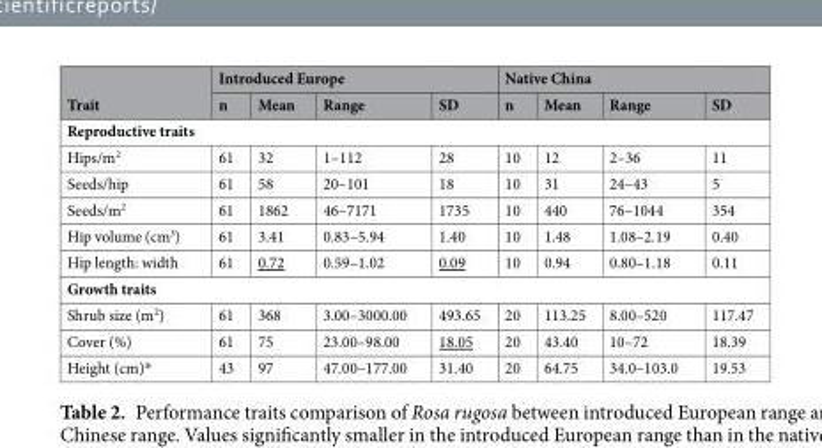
<table><thead><tr><td rowspan="2">Trait</td><td colspan="4">Introduced Europe</td><td colspan="4">Native China</td></tr><tr><td>n</td><td>Mean</td><td>Range</td><td>SD</td><td>n</td><td>Mean</td><td>Range</td><td>SD</td></tr></thead><tbody><tr><td colspan="9">Reproductive traits</td></tr><tr><td>Hips/m<sup>2</sup></td><td>61</td><td>32</td><td>1–112</td><td>28</td><td>10</td><td>12</td><td>2–36</td><td>11</td></tr><tr><td>Seeds/hip</td><td>61</td><td>58</td><td>20–101</td><td>18</td><td>10</td><td>31</td><td>24–43</td><td>5</td></tr><tr><td>Seeds/m<sup>2</sup></td><td>61</td><td>1862</td><td>46–7171</td><td>1735</td><td>10</td><td>440</td><td>76–1044</td><td>354</td></tr><tr><td>Hip volume (cm<sup>3</sup>)</td><td>61</td><td>3.41</td><td>0.83–5.94</td><td>1.40</td><td>10</td><td>1.48</td><td>1.08–2.19</td><td>0.40</td></tr><tr><td>Hip length: width</td><td>61</td><td>0.72</td><td>0.59–1.02</td><td>0.09</td><td>10</td><td>0.94</td><td>0.80–1.18</td><td>0.11</td></tr><tr><td colspan="9">Growth traits</td></tr><tr><td>Shrub size (m<sup>2</sup>)</td><td>61</td><td>368</td><td>3.00–3000.00</td><td>493.65</td><td>20</td><td>113.25</td><td>8.00–520</td><td>117.47</td></tr><tr><td>Cover (%)</td><td>61</td><td>75</td><td>23.00–98.00</td><td>18.05</td><td>20</td><td>43.40</td><td>10–72</td><td>18.39</td></tr><tr><td>Height (cm)*</td><td>43</td><td>97</td><td>47.00–177.00</td><td>31.40</td><td>20</td><td>64.75</td><td>34.0–103.0</td><td>19.53</td></tr></tbody></table>